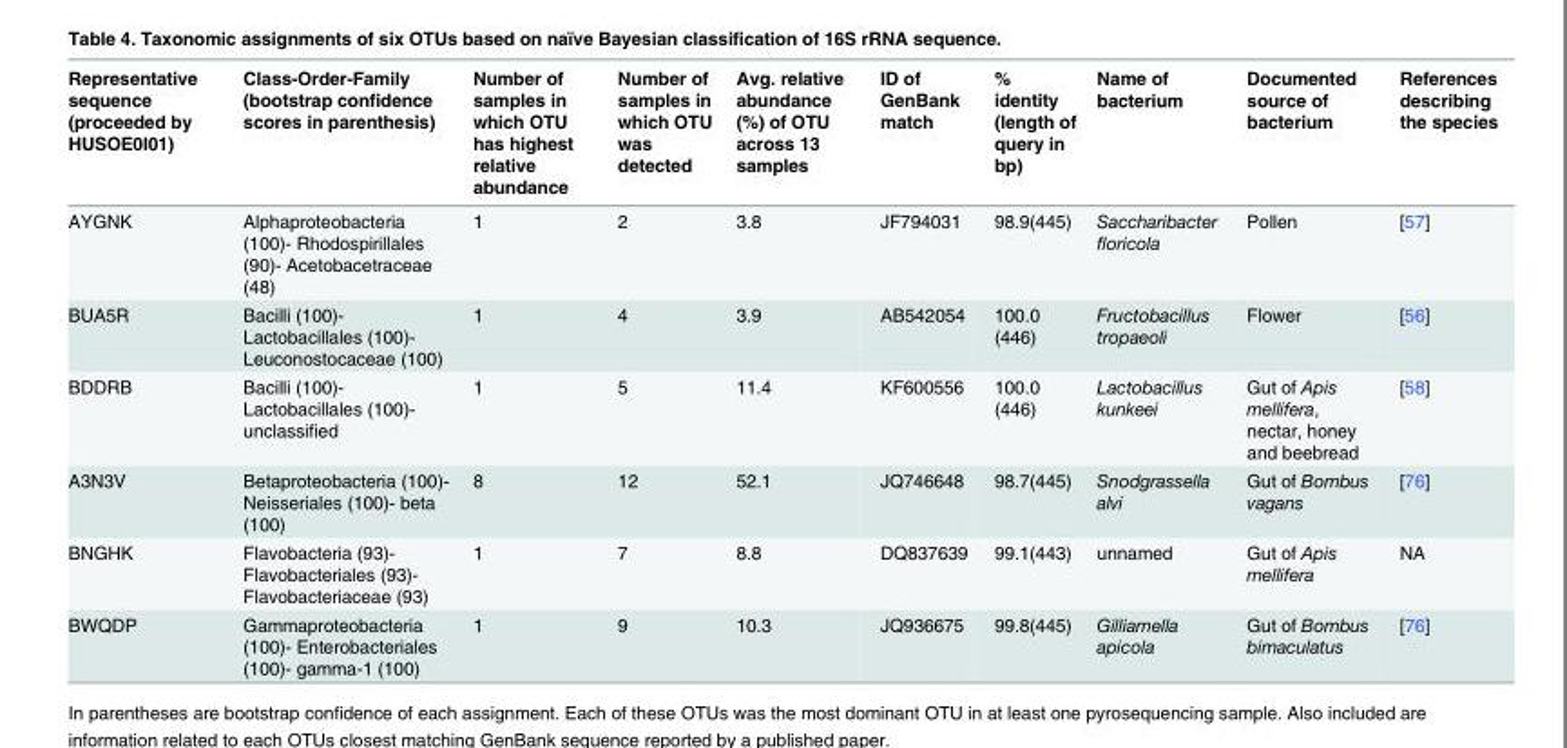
<table><thead><tr><td>Representative sequence (proceeded by HUSOE0I01)</td><td>Class-Order-Family (bootstrap confidence scores in parenthesis)</td><td>Number of samples in which OTU has highest relative abundance</td><td>Number of samples in which OTU was detected</td><td>Avg. relative abundance (%) of OTU across 13 samples</td><td>ID of GenBank match</td><td>% identity (length of query in bp)</td><td>Name of bacterium</td><td>Documented source of bacterium</td><td>References describing the species</td></tr></thead><tbody><tr><td>AYGNK</td><td>Alphaproteobacteria (100)- Rhodospirillales (90)- Acetobacetraceae (48)</td><td>1</td><td>2</td><td>3.8</td><td>JF794031</td><td>98.9(445)</td><td>Saccharibacter floricola</td><td>Pollen</td><td>[57]</td></tr><tr><td>BUA5R</td><td>Bacilli (100)- Lactobacillales (100)- Leuconostocaceae (100)</td><td>1</td><td>4</td><td>3.9</td><td>AB542054</td><td>100.0 (446)</td><td>Fructobacillus tropaeoli</td><td>Flower</td><td>[56]</td></tr><tr><td>BDDRB</td><td>Bacilli (100)- Lactobacillales (100)- unclassified</td><td>1</td><td>5</td><td>11.4</td><td>KF600556</td><td>100.0 (446)</td><td>Lactobacillus kunkeei</td><td>Gut of Apis mellifera, nectar, honey and beebread</td><td>[58]</td></tr><tr><td>A3N3V</td><td>Betaproteobacteria (100)- Neisseriales (100)- beta (100)</td><td>8</td><td>12</td><td>52.1</td><td>JQ746648</td><td>98.7(445)</td><td>Snodgrassella alvi</td><td>Gut of Bombus vagans</td><td>[76]</td></tr><tr><td>BNGHK</td><td>Flavobacteria (93)- Flavobacteriales (93)- Flavobacteriaceae (93)</td><td>1</td><td>7</td><td>8.8</td><td>DQ837639</td><td>99.1(443)</td><td>unnamed</td><td>Gut of Apis mellifera</td><td>NA</td></tr><tr><td>BWQDP</td><td>Gammaproteobacteria (100)- Enterobacteriales (100)- gamma-1 (100)</td><td>1</td><td>9</td><td>10.3</td><td>JQ936675</td><td>99.8(445)</td><td>Gilliamella apicola</td><td>Gut of Bombus bimaculatus</td><td>[76]</td></tr></tbody></table>